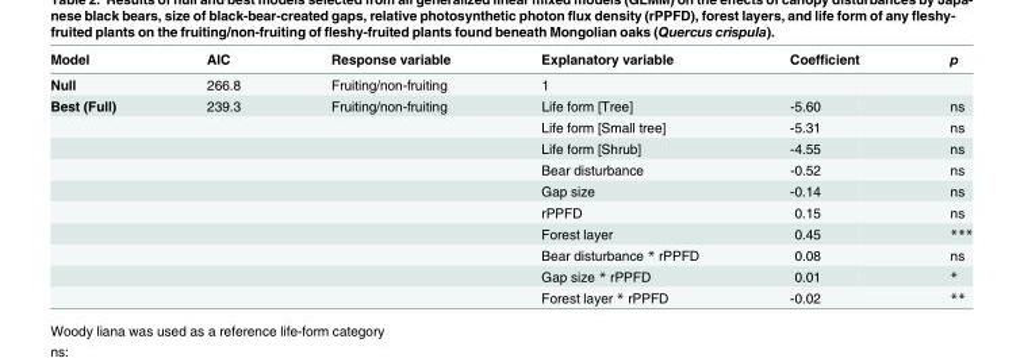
<table><thead><tr><td>Model</td><td>AIC</td><td>Response variable</td><td>Explanatory variable</td><td>Coefficient</td><td>p</td></tr></thead><tbody><tr><td>Null</td><td>266.8</td><td>Fruiting/non-fruiting</td><td>1</td><td></td><td></td></tr><tr><td rowspan="10">Best (Full)</td><td>239.3</td><td>Fruiting/non-fruiting</td><td>Life form [Tree]</td><td>-5.60</td><td>ns</td></tr><tr><td></td><td></td><td>Life form [Small tree]</td><td>-5.31</td><td>ns</td></tr><tr><td></td><td></td><td>Life form [Shrub]</td><td>-4.55</td><td>ns</td></tr><tr><td></td><td></td><td>Bear disturbance</td><td>-0.52</td><td>ns</td></tr><tr><td></td><td></td><td>Gap size</td><td>-0.14</td><td>ns</td></tr><tr><td></td><td></td><td>rPPFD</td><td>0.15</td><td>ns</td></tr><tr><td></td><td></td><td>Forest layer</td><td>0.45</td><td>***</td></tr><tr><td></td><td></td><td>Bear disturbance * rPPFD</td><td>0.08</td><td>ns</td></tr><tr><td></td><td></td><td>Gap size * rPPFD</td><td>0.01</td><td>*</td></tr><tr><td></td><td></td><td>Forest layer * rPPFD</td><td>-0.02</td><td>**</td></tr></tbody></table>